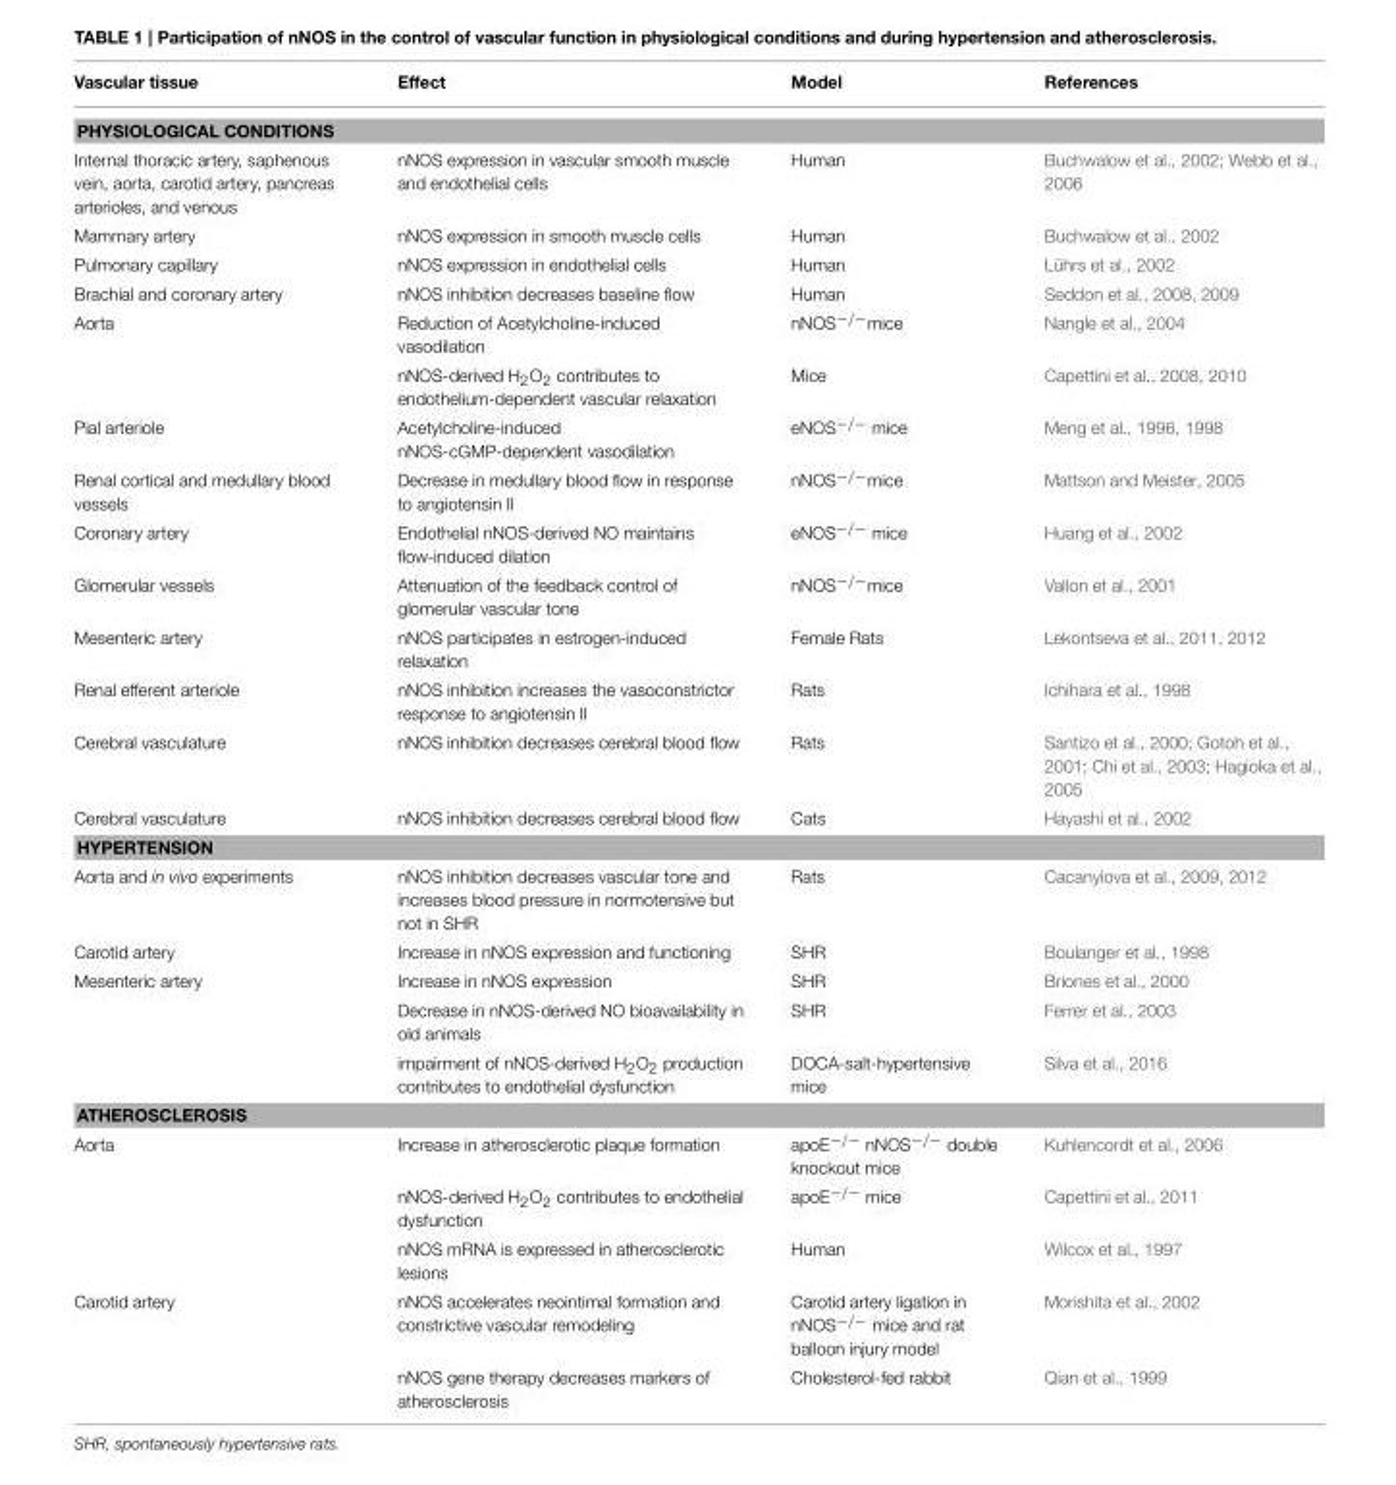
<table><thead><tr><td>Vascular tissue</td><td>Effect</td><td>Model</td><td>References</td></tr></thead><tbody><tr><td colspan="4">PHYSIOLOGICAL CONDITIONS</td></tr><tr><td>Internal thoracic artery, saphenous vein, aorta, carotid artery, pancreas arterioles, and venous</td><td>nNOS expression in vascular smooth muscle and endothelial cells</td><td>Human</td><td>Buchwalow et al., 2002; Webb et al., 2006</td></tr><tr><td>Mammary artery</td><td>nNOS expression in smooth muscle cells</td><td>Human</td><td>Buchwalow et al., 2002</td></tr><tr><td>Pulmonary capillary</td><td>nNOS expression in endothelial cells</td><td>Human</td><td>Lührs et al., 2002</td></tr><tr><td>Brachial and coronary artery</td><td>nNOS inhibition decreases baseline flow</td><td>Human</td><td>Seddon et al., 2008, 2009</td></tr><tr><td rowspan="2">Aorta</td><td>Reduction of Acetylcholine-induced vasodilation</td><td>nNOS−/−mice</td><td>Nangle et al., 2004</td></tr><tr><td>nNOS-derived H<sub>2</sub>O<sub>2</sub> contributes to endothelium-dependent vascular relaxation</td><td>Mice</td><td>Capettini et al., 2008, 2010</td></tr><tr><td>Pial arteriole</td><td>Acetylcholine-induced nNOS-cGMP-dependent vasodilation</td><td>eNOS−/− mice</td><td>Meng et al., 1996, 1998</td></tr><tr><td>Renal cortical and medullary blood vessels</td><td>Decrease in medullary blood flow in response to angiotensin II</td><td>nNOS−/−mice</td><td>Mattson and Meister, 2005</td></tr><tr><td>Coronary artery</td><td>Endothelial nNOS-derived NO maintains flow-induced dilation</td><td>eNOS−/− mice</td><td>Huang et al., 2002</td></tr><tr><td>Glomerular vessels</td><td>Attenuation of the feedback control of glomerular vascular tone</td><td>nNOS−/−mice</td><td>Vallon et al., 2001</td></tr><tr><td>Mesenteric artery</td><td>nNOS participates in estrogen-induced relaxation</td><td>Female Rats</td><td>Lekontseva et al., 2011, 2012</td></tr><tr><td>Renal efferent arteriole</td><td>nNOS inhibition increases the vasoconstrictor response to angiotensin II</td><td>Rats</td><td>Ichihara et al., 1998</td></tr><tr><td>Cerebral vasculature</td><td>nNOS inhibition decreases cerebral blood flow</td><td>Rats</td><td>Santizo et al., 2000; Gotoh et al., 2001; Chi et al., 2003; Hagioka et al., 2005</td></tr><tr><td>Cerebral vasculature</td><td>nNOS inhibition decreases cerebral blood flow</td><td>Cats</td><td>Hayashi et al., 2002</td></tr><tr><td colspan="4">HYPERTENSION</td></tr><tr><td>Aorta and in vivo experiments</td><td>nNOS inhibition decreases vascular tone and increases blood pressure in normotensive but not in SHR</td><td>Rats</td><td>Cacanyiova et al., 2009, 2012</td></tr><tr><td>Carotid artery</td><td>Increase in nNOS expression and functioning</td><td>SHR</td><td>Boulanger et al., 1998</td></tr><tr><td rowspan="3">Mesenteric artery</td><td>Increase in nNOS expression</td><td>SHR</td><td>Briones et al., 2000</td></tr><tr><td>Decrease in nNOS-derived NO bioavailability in old animals</td><td>SHR</td><td>Ferrer et al., 2003</td></tr><tr><td>impairment of nNOS-derived H<sub>2</sub>O<sub>2</sub> production contributes to endothelial dysfunction</td><td>DOCA-salt-hypertensive mice</td><td>Silva et al., 2016</td></tr><tr><td colspan="4">ATHEROSCLEROSIS</td></tr><tr><td rowspan="3">Aorta</td><td>Increase in atherosclerotic plaque formation</td><td>apoE−/− nNOS−/− double knockout mice</td><td>Kuhlencordt et al., 2006</td></tr><tr><td>nNOS-derived H<sub>2</sub>O<sub>2</sub> contributes to endothelial dysfunction</td><td>apoE−/− mice</td><td>Capettini et al., 2011</td></tr><tr><td>nNOS mRNA is expressed in atherosclerotic lesions</td><td>Human</td><td>Wilcox et al., 1997</td></tr><tr><td rowspan="2">Carotid artery</td><td>nNOS accelerates neointimal formation and constrictive vascular remodeling</td><td>Carotid artery ligation in nNOS−/− mice and rat balloon injury model</td><td>Morishita et al., 2002</td></tr><tr><td>nNOS gene therapy decreases markers of atherosclerosis</td><td>Cholesterol-fed rabbit</td><td>Qian et al., 1999</td></tr></tbody></table>